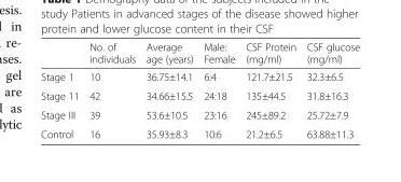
<table><thead><tr><td></td><td>No. of individuals</td><td>Average age (years)</td><td>Male: Female</td><td>CSF Protein (mg/ml)</td><td>CSF glucose (mg/ml)</td></tr></thead><tbody><tr><td>Stage 1</td><td>10</td><td>36.75±14.1</td><td>6:4</td><td>121.7±21.5</td><td>32.3±6.5</td></tr><tr><td>Stage 11</td><td>42</td><td>34.66±15.5</td><td>24:18</td><td>135±44.5</td><td>31.8±16.3</td></tr><tr><td>Stage III</td><td>39</td><td>53.6±10.5</td><td>23:16</td><td>245±89.2</td><td>25.72±7.9</td></tr><tr><td>Control</td><td>16</td><td>35.93±8.3</td><td>10:6</td><td>21.2±6.5</td><td>63.88±11.3</td></tr></tbody></table>